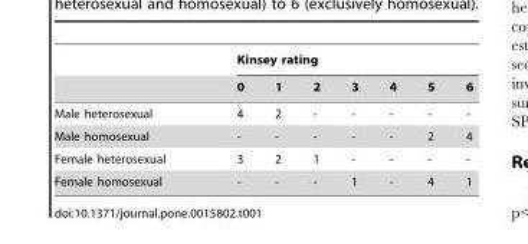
<table><thead><tr><td rowspan="2"></td><td colspan="7">Kinsey rating</td></tr><tr><td>0</td><td>1</td><td>2</td><td>3</td><td>4</td><td>5</td><td>6</td></tr></thead><tbody><tr><td>Male heterosexual</td><td>4</td><td>2</td><td>-</td><td>-</td><td>-</td><td>-</td><td>-</td></tr><tr><td>Male homosexual</td><td>-</td><td>-</td><td>-</td><td>-</td><td>-</td><td>2</td><td>4</td></tr><tr><td>Female heterosexual</td><td>3</td><td>2</td><td>1</td><td>-</td><td>-</td><td>-</td><td>-</td></tr><tr><td>Female homosexual</td><td>-</td><td>-</td><td>-</td><td>1</td><td>-</td><td>4</td><td>1</td></tr></tbody></table>